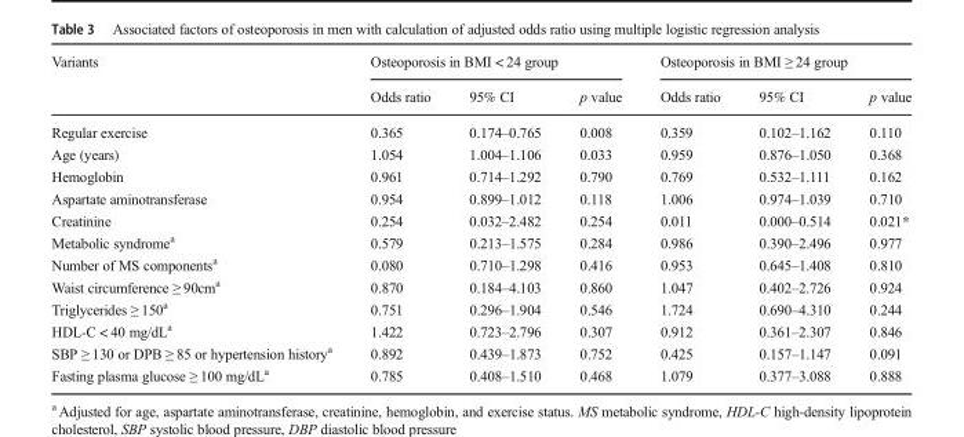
<table><thead><tr><td rowspan="2">Variants</td><td colspan="3">Osteoporosis in BMI &lt; 24 group</td><td colspan="3">Osteoporosis in BMI ≥ 24 group</td></tr><tr><td>Odds ratio</td><td>95% CI</td><td>p value</td><td>Odds ratio</td><td>95% CI</td><td>p value</td></tr></thead><tbody><tr><td>Regular exercise</td><td>0.365</td><td>0.174–0.765</td><td>0.008</td><td>0.359</td><td>0.102–1.162</td><td>0.110</td></tr><tr><td>Age (years)</td><td>1.054</td><td>1.004–1.106</td><td>0.033</td><td>0.959</td><td>0.876–1.050</td><td>0.368</td></tr><tr><td>Hemoglobin</td><td>0.961</td><td>0.714–1.292</td><td>0.790</td><td>0.769</td><td>0.532–1.111</td><td>0.162</td></tr><tr><td>Aspartate aminotransferase</td><td>0.954</td><td>0.899–1.012</td><td>0.118</td><td>1.006</td><td>0.974–1.039</td><td>0.710</td></tr><tr><td>Creatinine</td><td>0.254</td><td>0.032–2.482</td><td>0.254</td><td>0.011</td><td>0.000–0.514</td><td>0.021*</td></tr><tr><td>Metabolic syndrome<sup>a</sup></td><td>0.579</td><td>0.213–1.575</td><td>0.284</td><td>0.986</td><td>0.390–2.496</td><td>0.977</td></tr><tr><td>Number of MS components<sup>a</sup></td><td>0.080</td><td>0.710–1.298</td><td>0.416</td><td>0.953</td><td>0.645–1.408</td><td>0.810</td></tr><tr><td>Waist circumference ≥ 90cm<sup>a</sup></td><td>0.870</td><td>0.184–4.103</td><td>0.860</td><td>1.047</td><td>0.402–2.726</td><td>0.924</td></tr><tr><td>Triglycerides ≥ 150<sup>a</sup></td><td>0.751</td><td>0.296–1.904</td><td>0.546</td><td>1.724</td><td>0.690–4.310</td><td>0.244</td></tr><tr><td>HDL-C &lt; 40 mg/dL<sup>a</sup></td><td>1.422</td><td>0.723–2.796</td><td>0.307</td><td>0.912</td><td>0.361–2.307</td><td>0.846</td></tr><tr><td>SBP ≥ 130 or DPB ≥ 85 or hypertension history<sup>a</sup></td><td>0.892</td><td>0.439–1.873</td><td>0.752</td><td>0.425</td><td>0.157–1.147</td><td>0.091</td></tr><tr><td>Fasting plasma glucose ≥ 100 mg/dL<sup>a</sup></td><td>0.785</td><td>0.408–1.510</td><td>0.468</td><td>1.079</td><td>0.377–3.088</td><td>0.888</td></tr></tbody></table>